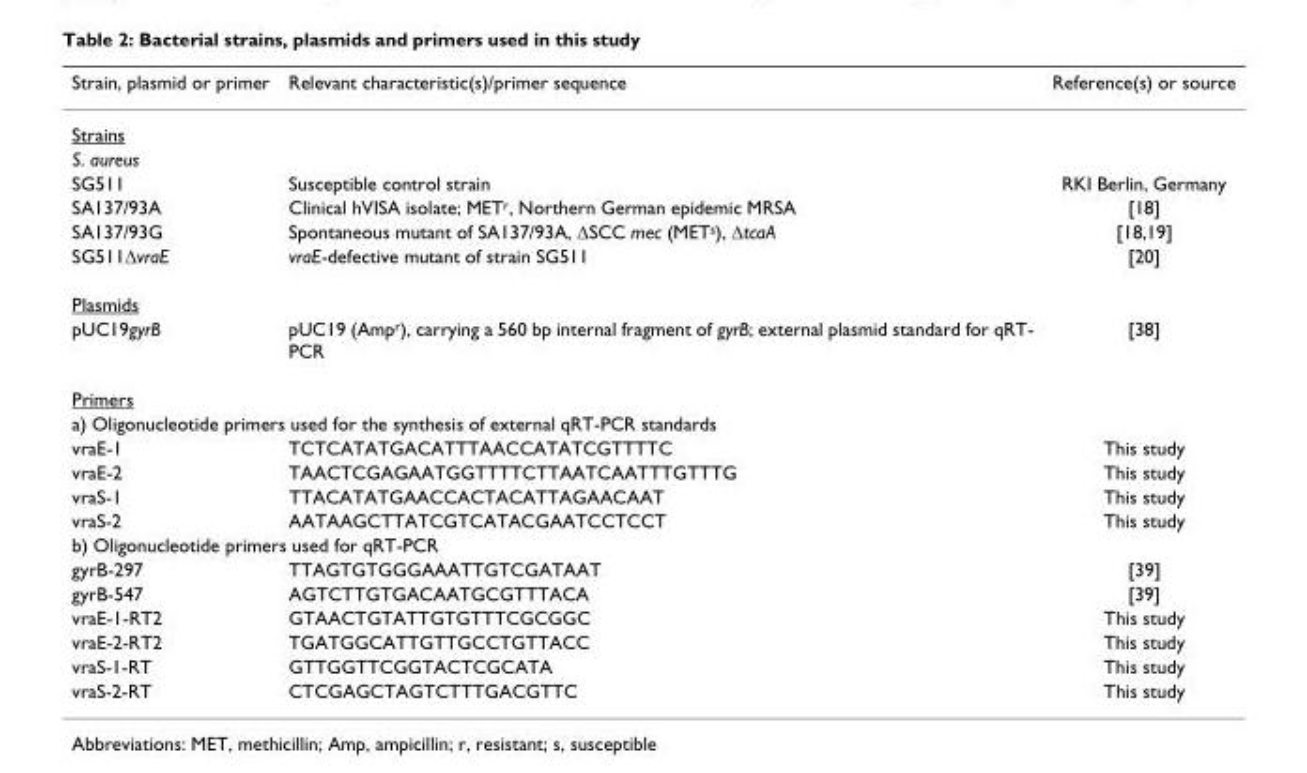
<table><thead><tr><td>Strain, plasmid or primer</td><td>Relevant characteristic(s)/primer sequence</td><td>Reference(s) or source</td></tr></thead><tbody><tr><td colspan="3">Strains</td></tr><tr><td colspan="3">S. aureus</td></tr><tr><td>SG511</td><td>Susceptible control strain</td><td>RKI Berlin, Germany</td></tr><tr><td>SA137/93A</td><td>Clinical hVISA isolate; MET<sup>r</sup>, Northern German epidemic MRSA</td><td>[18]</td></tr><tr><td>SA137/93G</td><td>Spontaneous mutant of SA137/93A, ΔSCC mec (MET<sup>s</sup>), ΔtcaA</td><td>[18,19]</td></tr><tr><td>SG511ΔvraE</td><td>vraE-defective mutant of strain SG511</td><td>[20]</td></tr><tr><td colspan="3">Plasmids</td></tr><tr><td>pUC19gyrB</td><td>pUC19 (Amp<sup>r</sup>), carrying a 560 bp internal fragment of gyrB; external plasmid standard for qRT- PCR</td><td>[38]</td></tr><tr><td colspan="3">Primers</td></tr><tr><td colspan="3">a) Oligonucleotide primers used for the synthesis of external qRT-PCR standards</td></tr><tr><td>vraE-1</td><td>TCTCATATGACATTTAACCATATCGTTTTC</td><td>This study</td></tr><tr><td>vraE-2</td><td>TAACTCGAGAATGGTTTTCTTAATCAATTTGTTTG</td><td>This study</td></tr><tr><td>vraS-1</td><td>TTACATATGAACCACTACATTAGAACAAT</td><td>This study</td></tr><tr><td>vraS-2</td><td>AATAAGCTTATCGTCATACGAATCCTCCT</td><td>This study</td></tr><tr><td colspan="3">b) Oligonucleotide primers used for qRT-PCR</td></tr><tr><td>gyrB-297</td><td>TTAGTGTGGGAAATTGTCGATAAT</td><td>[39]</td></tr><tr><td>gyrB-547</td><td>AGTCTTGTGACAATGCGTTTACA</td><td>[39]</td></tr><tr><td>vraE-1-RT2</td><td>GTAACTGTATTGTGTTTCGCGGC</td><td>This study</td></tr><tr><td>vraE-2-RT2</td><td>TGATGGCATTGTTGCCTGTTACC</td><td>This study</td></tr><tr><td>vraS-1-RT</td><td>GTTGGTTCGGTACTCGCATA</td><td>This study</td></tr><tr><td>vraS-2-RT</td><td>CTCGAGCTAGTCTTTGACGTTC</td><td>This study</td></tr></tbody></table>